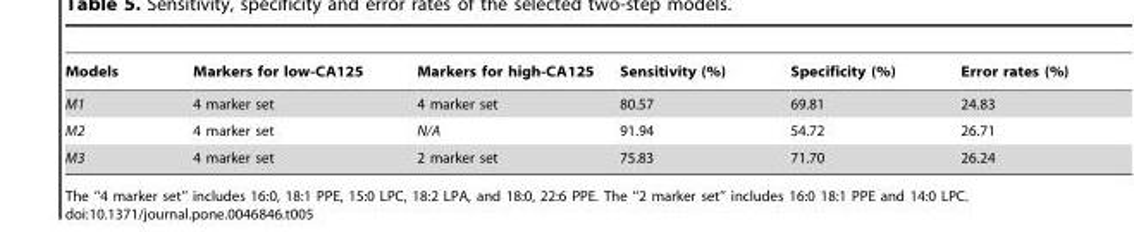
<table><thead><tr><td>Models</td><td>Markers for low-CA125</td><td>Markers for high-CA125</td><td>Sensitivity (%)</td><td>Specificity (%)</td><td>Error rates (%)</td></tr></thead><tbody><tr><td>M1</td><td>4 marker set</td><td>4 marker set</td><td>80.57</td><td>69.81</td><td>24.83</td></tr><tr><td>M2</td><td>4 marker set</td><td>N/A</td><td>91.94</td><td>54.72</td><td>26.71</td></tr><tr><td>M3</td><td>4 marker set</td><td>2 marker set</td><td>75.83</td><td>71.70</td><td>26.24</td></tr></tbody></table>